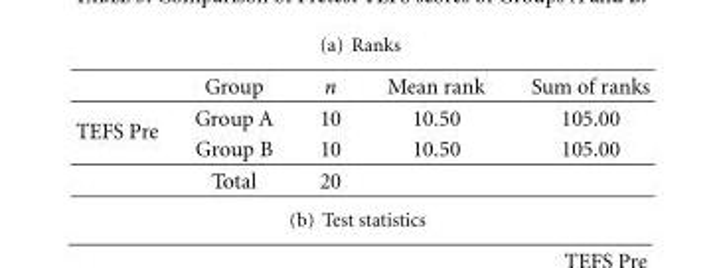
<table><thead><tr><td></td><td>Group</td><td>n</td><td>Mean rank</td><td>Sum of ranks</td></tr></thead><tbody><tr><td rowspan="3">TEFS Pre</td><td>Group A</td><td>10</td><td>10.50</td><td>105.00</td></tr><tr><td>Group B</td><td>10</td><td>10.50</td><td>105.00</td></tr><tr><td>Total</td><td>20</td><td></td><td></td></tr></tbody></table>